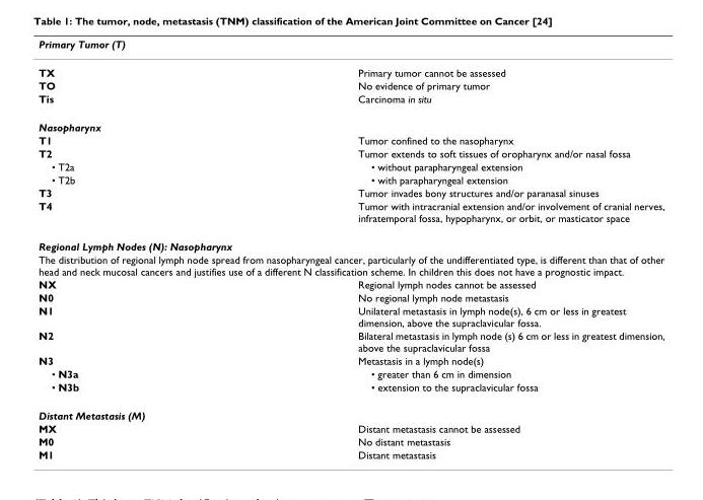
<table><thead><tr><td colspan="2">Primary Tumor (T)</td></tr><tr><td>TX</td><td>Primary tumor cannot be assessed</td></tr></thead><tbody><tr><td>TO</td><td>No evidence of primary tumor</td></tr><tr><td>Tis</td><td>Carcinoma in situ</td></tr><tr><td colspan="2">Nasopharynx</td></tr><tr><td>T1</td><td>Tumor confined to the nasopharynx</td></tr><tr><td>T2</td><td>Tumor extends to soft tissues of oropharynx and/or nasal fossa</td></tr><tr><td>• T2a</td><td>• without parapharyngeal extension</td></tr><tr><td>• T2b</td><td>• with parapharyngeal extension</td></tr><tr><td>T3</td><td>Tumor invades bony structures and/or paranasal sinuses</td></tr><tr><td>T4</td><td>Tumor with intracranial extension and/or involvement of cranial nerves, infratemporal fossa, hypopharynx, or orbit, or masticator space</td></tr><tr><td colspan="2">Regional Lymph Nodes (N): Nasopharynx</td></tr><tr><td colspan="2">The distribution of regional lymph node spread from nasopharyngeal cancer, particularly of the undifferentiated type, is different than that of other head and neck mucosal cancers and justifies use of a different N classification scheme. In children this does not have a prognostic impact.</td></tr><tr><td>NX</td><td>Regional lymph nodes cannot be assessed</td></tr><tr><td>N0</td><td>No regional lymph node metastasis</td></tr><tr><td>N1</td><td>Unilateral metastasis in lymph node(s), 6 cm or less in greatest dimension, above the supraclavicular fossa.</td></tr><tr><td>N2</td><td>Bilateral metastasis in lymph node (s) 6 cm or less in greatest dimension, above the supraclavicular fossa</td></tr><tr><td>N3</td><td>Metastasis in a lymph node(s)</td></tr><tr><td>• N3a</td><td>• greater than 6 cm in dimension</td></tr><tr><td>• N3b</td><td>• extension to the supraclavicular fossa</td></tr><tr><td colspan="2">Distant Metastasis (M)</td></tr><tr><td>MX</td><td>Distant metastasis cannot be assessed</td></tr><tr><td>M0</td><td>No distant metastasis</td></tr><tr><td>M1</td><td>Distant metastasis</td></tr></tbody></table>